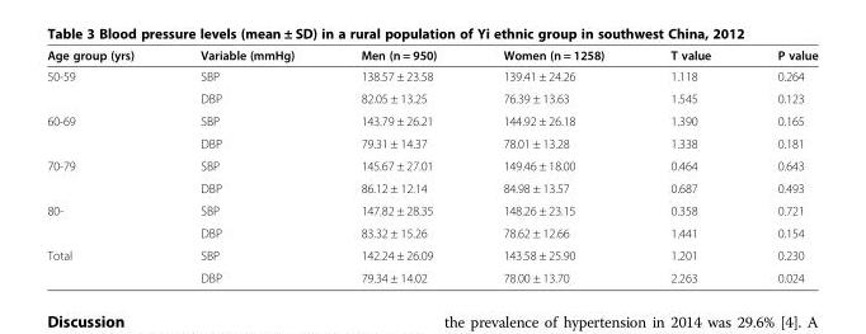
<table><thead><tr><td>Age group (yrs)</td><td>Variable (mmHg)</td><td>Men (n = 950)</td><td>Women (n = 1258)</td><td>T value</td><td>P value</td></tr></thead><tbody><tr><td rowspan="2">50-59</td><td>SBP</td><td>138.57 ± 23.58</td><td>139.41 ± 24.26</td><td>1.118</td><td>0.264</td></tr><tr><td>DBP</td><td>82.05 ± 13.25</td><td>76.39 ± 13.63</td><td>1.545</td><td>0.123</td></tr><tr><td rowspan="2">60-69</td><td>SBP</td><td>143.79 ± 26.21</td><td>144.92 ± 26.18</td><td>1.390</td><td>0.165</td></tr><tr><td>DBP</td><td>79.31 ± 14.37</td><td>78.01 ± 13.28</td><td>1.338</td><td>0.181</td></tr><tr><td rowspan="2">70-79</td><td>SBP</td><td>145.67 ± 27.01</td><td>149.46 ± 18.00</td><td>0.464</td><td>0.643</td></tr><tr><td>DBP</td><td>86.12 ± 12.14</td><td>84.98 ± 13.57</td><td>0.687</td><td>0.493</td></tr><tr><td rowspan="2">80-</td><td>SBP</td><td>147.82 ± 28.35</td><td>148.26 ± 23.15</td><td>0.358</td><td>0.721</td></tr><tr><td>DBP</td><td>83.32 ± 15.26</td><td>78.62 ± 12.66</td><td>1.441</td><td>0.154</td></tr><tr><td rowspan="2">Total</td><td>SBP</td><td>142.24 ± 26.09</td><td>143.58 ± 25.90</td><td>1.201</td><td>0.230</td></tr><tr><td>DBP</td><td>79.34 ± 14.02</td><td>78.00 ± 13.70</td><td>2.263</td><td>0.024</td></tr></tbody></table>